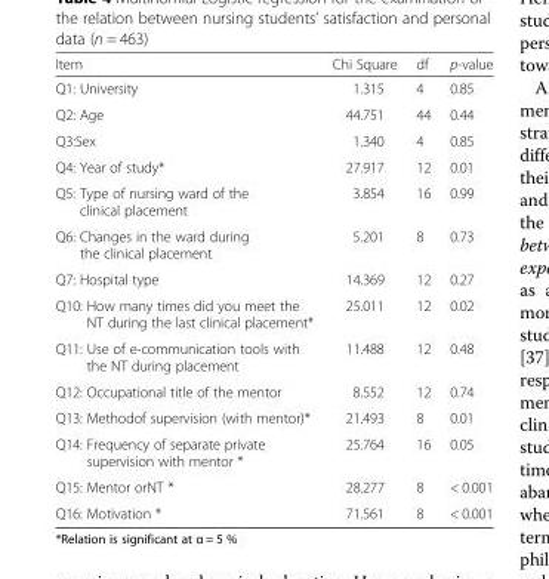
<table><thead><tr><td>Item</td><td>Chi Square</td><td>df</td><td>p-value</td></tr></thead><tbody><tr><td>Q1: University</td><td>1.315</td><td>4</td><td>0.85</td></tr><tr><td>Q2: Age</td><td>44.751</td><td>44</td><td>0.44</td></tr><tr><td>Q3:Sex</td><td>1.340</td><td>4</td><td>0.85</td></tr><tr><td>Q4: Year of study*</td><td>27.917</td><td>12</td><td>0.01</td></tr><tr><td>Q5: Type of nursing ward of the clinical placement</td><td>3.854</td><td>16</td><td>0.99</td></tr><tr><td>Q6: Changes in the ward during the clinical placement</td><td>5.201</td><td>8</td><td>0.73</td></tr><tr><td>Q7: Hospital type</td><td>14.369</td><td>12</td><td>0.27</td></tr><tr><td>Q10: How many times did you meet the NT during the last clinical placement*</td><td>25.011</td><td>12</td><td>0.02</td></tr><tr><td>Q11: Use of e-communication tools with the NT during placement</td><td>11.488</td><td>12</td><td>0.48</td></tr><tr><td>Q12: Occupational title of the mentor</td><td>8.552</td><td>12</td><td>0.74</td></tr><tr><td>Q13: Methodof supervision (with mentor)*</td><td>21.493</td><td>8</td><td>0.01</td></tr><tr><td>Q14: Frequency of separate private supervision with mentor *</td><td>25.764</td><td>16</td><td>0.05</td></tr><tr><td>Q15: Mentor orNT *</td><td>28.277</td><td>8</td><td>&lt; 0.001</td></tr><tr><td>Q16: Motivation *</td><td>71.561</td><td>8</td><td>&lt; 0.001</td></tr></tbody></table>